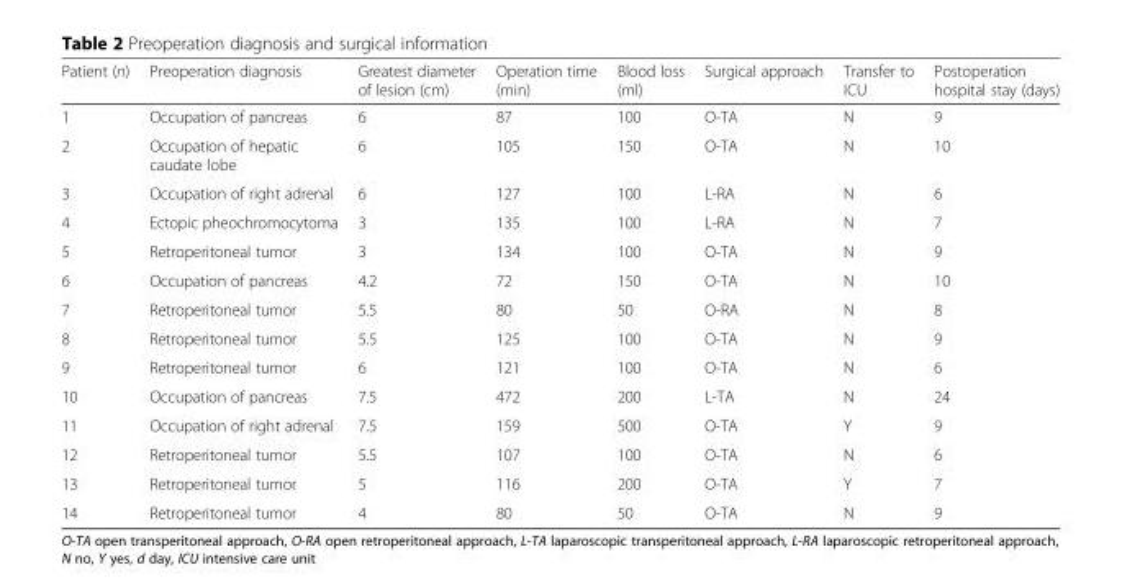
<table><thead><tr><td>Patient (n)</td><td>Preoperation diagnosis</td><td>Greatest diameter of lesion (cm)</td><td>Operation time (min)</td><td>Blood loss (ml)</td><td>Surgical approach</td><td>Transfer to ICU</td><td>Postoperation hospital stay (days)</td></tr></thead><tbody><tr><td>1</td><td>Occupation of pancreas</td><td>6</td><td>87</td><td>100</td><td>O-TA</td><td>N</td><td>9</td></tr><tr><td>2</td><td>Occupation of hepatic caudate lobe</td><td>6</td><td>105</td><td>150</td><td>O-TA</td><td>N</td><td>10</td></tr><tr><td>3</td><td>Occupation of right adrenal</td><td>6</td><td>127</td><td>100</td><td>L-RA</td><td>N</td><td>6</td></tr><tr><td>4</td><td>Ectopic pheochromocytoma</td><td>3</td><td>135</td><td>100</td><td>L-RA</td><td>N</td><td>7</td></tr><tr><td>5</td><td>Retroperitoneal tumor</td><td>3</td><td>134</td><td>100</td><td>O-TA</td><td>N</td><td>9</td></tr><tr><td>6</td><td>Occupation of pancreas</td><td>4.2</td><td>72</td><td>150</td><td>O-TA</td><td>N</td><td>10</td></tr><tr><td>7</td><td>Retroperitoneal tumor</td><td>5.5</td><td>80</td><td>50</td><td>O-RA</td><td>N</td><td>8</td></tr><tr><td>8</td><td>Retroperitoneal tumor</td><td>5.5</td><td>125</td><td>100</td><td>O-TA</td><td>N</td><td>9</td></tr><tr><td>9</td><td>Retroperitoneal tumor</td><td>6</td><td>121</td><td>100</td><td>O-TA</td><td>N</td><td>6</td></tr><tr><td>10</td><td>Occupation of pancreas</td><td>7.5</td><td>472</td><td>200</td><td>L-TA</td><td>N</td><td>24</td></tr><tr><td>11</td><td>Occupation of right adrenal</td><td>7.5</td><td>159</td><td>500</td><td>O-TA</td><td>Y</td><td>9</td></tr><tr><td>12</td><td>Retroperitoneal tumor</td><td>5.5</td><td>107</td><td>100</td><td>O-TA</td><td>N</td><td>6</td></tr><tr><td>13</td><td>Retroperitoneal tumor</td><td>5</td><td>116</td><td>200</td><td>O-TA</td><td>Y</td><td>7</td></tr><tr><td>14</td><td>Retroperitoneal tumor</td><td>4</td><td>80</td><td>50</td><td>O-TA</td><td>N</td><td>9</td></tr></tbody></table>